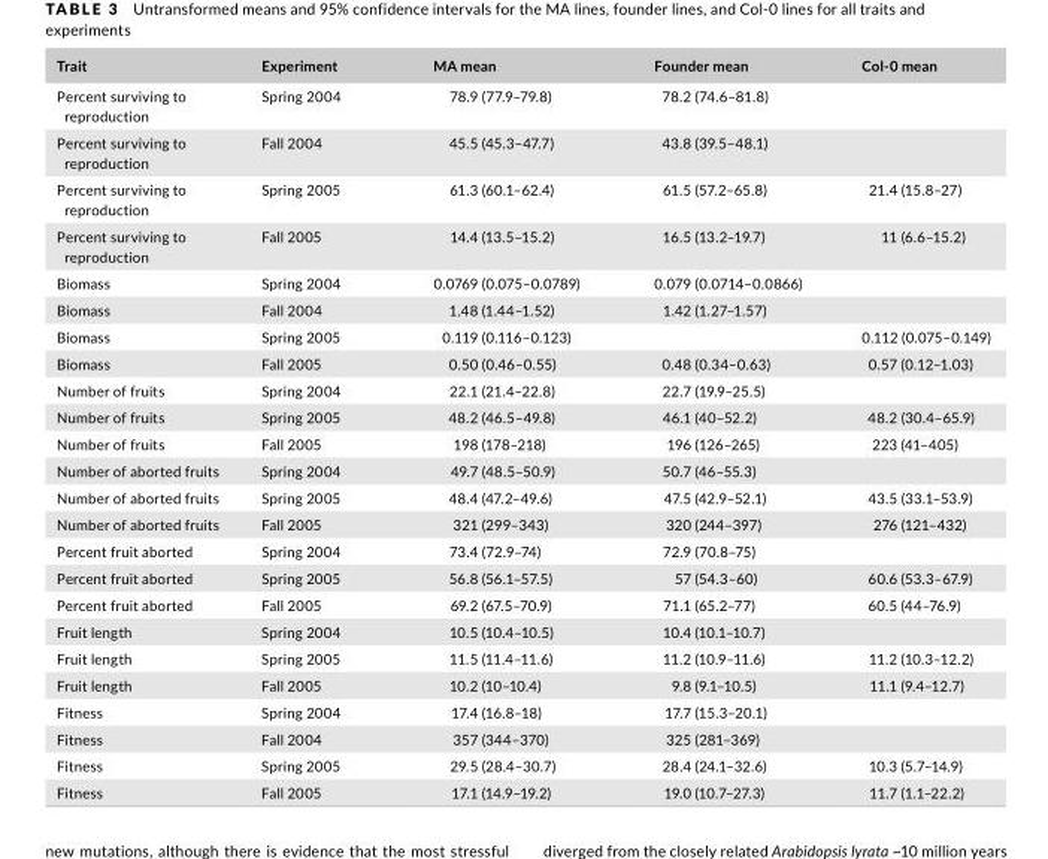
<table><thead><tr><td>Trait</td><td>Experiment</td><td>MA mean</td><td>Founder mean</td><td>Col- 0 mean</td></tr></thead><tbody><tr><td>Percent surviving to reproduction</td><td>Spring 2004</td><td>78.9 (77.9–79.8)</td><td>78.2 (74.6–81.8)</td><td></td></tr><tr><td>Percent surviving to reproduction</td><td>Fall 2004</td><td>45.5 (45.3–47.7)</td><td>43.8 (39.5–48.1)</td><td></td></tr><tr><td>Percent surviving to reproduction</td><td>Spring 2005</td><td>61.3 (60.1–62.4)</td><td>61.5 (57.2–65.8)</td><td>21.4 (15.8–27)</td></tr><tr><td>Percent surviving to reproduction</td><td>Fall 2005</td><td>14.4 (13.5–15.2)</td><td>16.5 (13.2–19.7)</td><td>11 (6.6–15.2)</td></tr><tr><td>Biomass</td><td>Spring 2004</td><td>0.0769 (0.075–0.0789)</td><td>0.079 (0.0714–0.0866)</td><td></td></tr><tr><td>Biomass</td><td>Fall 2004</td><td>1.48 (1.44–1.52)</td><td>1.42 (1.27–1.57)</td><td></td></tr><tr><td>Biomass</td><td>Spring 2005</td><td>0.119 (0.116–0.123)</td><td></td><td>0.112 (0.075–0.149)</td></tr><tr><td>Biomass</td><td>Fall 2005</td><td>0.50 (0.46–0.55)</td><td>0.48 (0.34–0.63)</td><td>0.57 (0.12–1.03)</td></tr><tr><td>Number of fruits</td><td>Spring 2004</td><td>22.1 (21.4–22.8)</td><td>22.7 (19.9–25.5)</td><td></td></tr><tr><td>Number of fruits</td><td>Spring 2005</td><td>48.2 (46.5–49.8)</td><td>46.1 (40–52.2)</td><td>48.2 (30.4–65.9)</td></tr><tr><td>Number of fruits</td><td>Fall 2005</td><td>198 (178–218)</td><td>196 (126–265)</td><td>223 (41–405)</td></tr><tr><td>Number of aborted fruits</td><td>Spring 2004</td><td>49.7 (48.5–50.9)</td><td>50.7 (46–55.3)</td><td></td></tr><tr><td>Number of aborted fruits</td><td>Spring 2005</td><td>48.4 (47.2–49.6)</td><td>47.5 (42.9–52.1)</td><td>43.5 (33.1–53.9)</td></tr><tr><td>Number of aborted fruits</td><td>Fall 2005</td><td>321 (299–343)</td><td>320 (244–397)</td><td>276 (121–432)</td></tr><tr><td>Percent fruit aborted</td><td>Spring 2004</td><td>73.4 (72.9–74)</td><td>72.9 (70.8–75)</td><td></td></tr><tr><td>Percent fruit aborted</td><td>Spring 2005</td><td>56.8 (56.1–57.5)</td><td>57 (54.3–60)</td><td>60.6 (53.3–67.9)</td></tr><tr><td>Percent fruit aborted</td><td>Fall 2005</td><td>69.2 (67.5–70.9)</td><td>71.1 (65.2–77)</td><td>60.5 (44–76.9)</td></tr><tr><td>Fruit length</td><td>Spring 2004</td><td>10.5 (10.4–10.5)</td><td>10.4 (10.1–10.7)</td><td></td></tr><tr><td>Fruit length</td><td>Spring 2005</td><td>11.5 (11.4–11.6)</td><td>11.2 (10.9–11.6)</td><td>11.2 (10.3–12.2)</td></tr><tr><td>Fruit length</td><td>Fall 2005</td><td>10.2 (10–10.4)</td><td>9.8 (9.1–10.5)</td><td>11.1 (9.4–12.7)</td></tr><tr><td>Fitness</td><td>Spring 2004</td><td>17.4 (16.8–18)</td><td>17.7 (15.3–20.1)</td><td></td></tr><tr><td>Fitness</td><td>Fall 2004</td><td>357 (344–370)</td><td>325 (281–369)</td><td></td></tr><tr><td>Fitness</td><td>Spring 2005</td><td>29.5 (28.4–30.7)</td><td>28.4 (24.1–32.6)</td><td>10.3 (5.7–14.9)</td></tr><tr><td>Fitness</td><td>Fall 2005</td><td>17.1 (14.9–19.2)</td><td>19.0 (10.7–27.3)</td><td>11.7 (1.1–22.2)</td></tr></tbody></table>